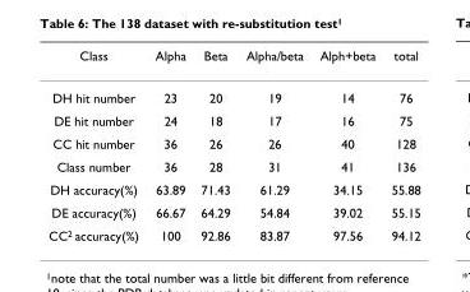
<table><thead><tr><td>Class</td><td>Alpha</td><td>Beta</td><td>Alpha/beta</td><td>Alph+beta</td><td>total</td></tr></thead><tbody><tr><td>DH hit number</td><td>23</td><td>20</td><td>19</td><td>14</td><td>76</td></tr><tr><td>DE hit number</td><td>24</td><td>18</td><td>17</td><td>16</td><td>75</td></tr><tr><td>CC hit number</td><td>36</td><td>26</td><td>26</td><td>40</td><td>128</td></tr><tr><td>Class number</td><td>36</td><td>28</td><td>31</td><td>41</td><td>136</td></tr><tr><td>DH accuracy(%)</td><td>63.89</td><td>71.43</td><td>61.29</td><td>34.15</td><td>55.88</td></tr><tr><td>DE accuracy(%)</td><td>66.67</td><td>64.29</td><td>54.84</td><td>39.02</td><td>55.15</td></tr><tr><td>CC<sup>2</sup> accuracy(%)</td><td>100</td><td>92.86</td><td>83.87</td><td>97.56</td><td>94.12</td></tr></tbody></table>